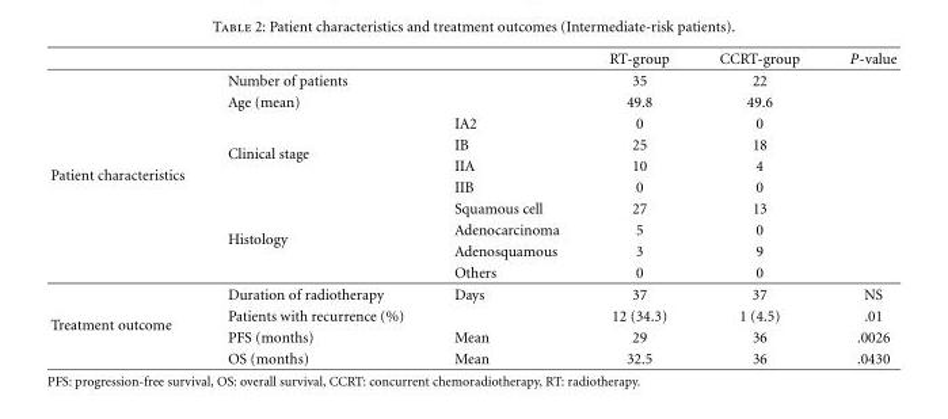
<table><thead><tr><td></td><td></td><td></td><td>RT-group</td><td>CCRT-group</td><td>P-value</td></tr></thead><tbody><tr><td rowspan="10">Patient characteristics</td><td>Number of patients</td><td></td><td>35</td><td>22</td><td></td></tr><tr><td>Age (mean)</td><td></td><td>49.8</td><td>49.6</td><td></td></tr><tr><td rowspan="4">Clinical stage</td><td>IA2</td><td>0</td><td>0</td><td></td></tr><tr><td>IB</td><td>25</td><td>18</td><td></td></tr><tr><td>IIA</td><td>10</td><td>4</td><td></td></tr><tr><td>IIB</td><td>0</td><td>0</td><td></td></tr><tr><td rowspan="4">Histology</td><td>Squamous cell</td><td>27</td><td>13</td><td></td></tr><tr><td>Adenocarcinoma</td><td>5</td><td>0</td><td></td></tr><tr><td>Adenosquamous</td><td>3</td><td>9</td><td></td></tr><tr><td>Others</td><td>0</td><td>0</td><td></td></tr><tr><td rowspan="4">Treatment outcome</td><td>Duration of radiotherapy</td><td>Days</td><td>37</td><td>37</td><td>NS</td></tr><tr><td>Patients with recurrence (%)</td><td></td><td>12 (34.3)</td><td>1 (4.5)</td><td>.01</td></tr><tr><td>PFS (months)</td><td>Mean</td><td>29</td><td>36</td><td>.0026</td></tr><tr><td>OS (months)</td><td>Mean</td><td>32.5</td><td>36</td><td>.0430</td></tr></tbody></table>